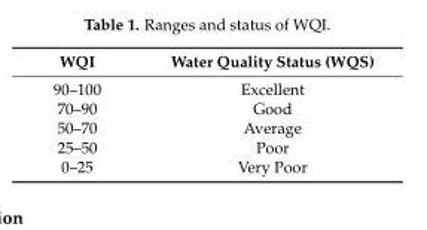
<table><thead><tr><td>WQI</td><td>Water Quality Status (WQS)</td></tr></thead><tbody><tr><td>90–100</td><td>Excellent</td></tr><tr><td>70–90</td><td>Good</td></tr><tr><td>50–70</td><td>Average</td></tr><tr><td>25–50</td><td>Poor</td></tr><tr><td>0–25</td><td>Very Poor</td></tr></tbody></table>